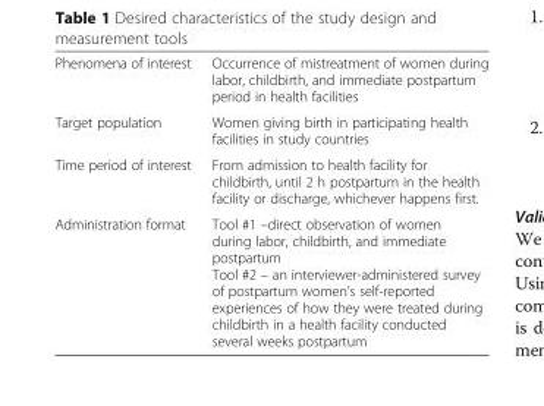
<table><tbody><tr><td>Phenomena of interest</td><td>Occurrence of mistreatment of women during labor, childbirth, and immediate postpartum period in health facilities</td></tr><tr><td>Target population</td><td>Women giving birth in participating health facilities in study countries</td></tr><tr><td>Time period of interest</td><td>From admission to health facility for childbirth, until 2 h postpartum in the health facility or discharge, whichever happens first.</td></tr><tr><td>Administration format</td><td>Tool #1 –direct observation of women during labor, childbirth, and immediate postpartum Tool #2 – an interviewer-administered survey of postpartum women’s self-reported experiences of how they were treated during childbirth in a health facility conducted several weeks postpartum</td></tr></tbody></table>